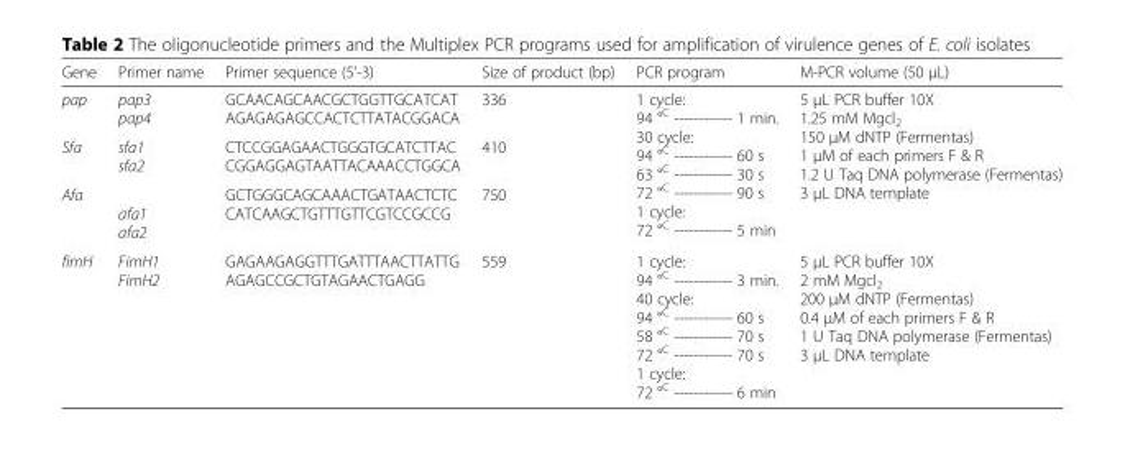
<table><thead><tr><td>Gene</td><td>Primer name</td><td>Primer sequence (5&#x27;-3)</td><td>Size of product (bp)</td><td>PCR program</td><td>M-PCR volume (50 μL)</td></tr></thead><tbody><tr><td>pap</td><td>pap3 pap4</td><td>GCAACAGCAACGCTGGTTGCATCAT AGAGAGAGCCACTCTTATACGGACA</td><td>336</td><td rowspan="3">1 cycle: 94 °<sup>C</sup> ------------ 1 min. 30 cycle: 94 °<sup>C</sup> ------------ 60 s 63 °<sup>C</sup> ------------ 30 s 72 °<sup>C</sup> ------------ 90 s 1 cycle: 72 °<sup>C</sup> ------------ 5 min</td><td rowspan="3">5 μL PCR buffer 10X 1.25 mM Mgcl<sub>2</sub> 150 μM dNTP (Fermentas) 1 μM of each primers F &amp; R 1.2 U Taq DNA polymerase (Fermentas) 3 μL DNA template</td></tr><tr><td>Sfa</td><td>sfa1 sfa2</td><td>CTCCGGAGAACTGGGTGCATCTTAC CGGAGGAGTAATTACAAACCTGGCA</td><td>410</td></tr><tr><td>Afa</td><td>afa1 afa2</td><td>GCTGGGCAGCAAACTGATAACTCTC CATCAAGCTGTTTGTTCGTCCGCCG</td><td>750</td></tr><tr><td>fimH</td><td>FimH1 FimH2</td><td>GAGAAGAGGTTTGATTTAACTTATTG AGAGCCGCTGTAGAACTGAGG</td><td>559</td><td>1 cycle: 94 °<sup>C</sup> ------------ 3 min. 40 cycle: 94 °<sup>C</sup> ------------ 60 s 58 °<sup>C</sup> ------------ 70 s 72 °<sup>C</sup> ------------ 70 s 1 cycle: 72 °<sup>C</sup> ------------ 6 min</td><td>5 μL PCR buffer 10X 2 mM Mgcl<sub>2</sub> 200 μM dNTP (Fermentas) 0.4 μM of each primers F &amp; R 1 U Taq DNA polymerase (Fermentas) 3 μL DNA template</td></tr></tbody></table>